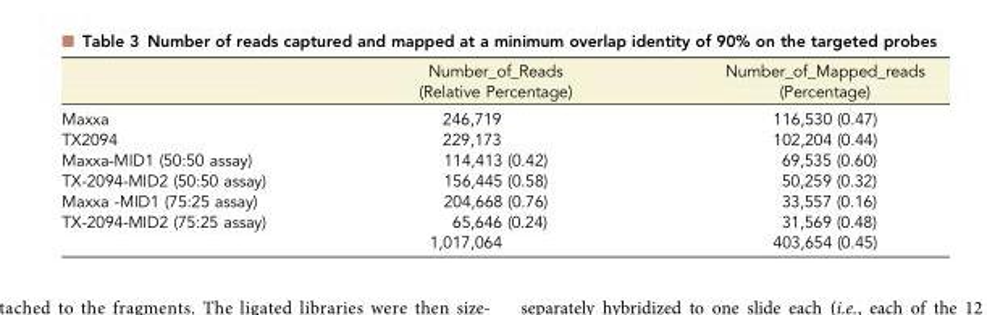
<table><thead><tr><td></td><td>Number_of_Reads (Relative Percentage)</td><td>Number_of_Mapped_reads (Percentage)</td></tr></thead><tbody><tr><td>Maxxa</td><td>246,719</td><td>116,530 (0.47)</td></tr><tr><td>TX2094</td><td>229,173</td><td>102,204 (0.44)</td></tr><tr><td>Maxxa-MID1 (50:50 assay)</td><td>114,413 (0.42)</td><td>69,535 (0.60)</td></tr><tr><td>TX-2094-MID2 (50:50 assay)</td><td>156,445 (0.58)</td><td>50,259 (0.32)</td></tr><tr><td>Maxxa -MID1 (75:25 assay)</td><td>204,668 (0.76)</td><td>33,557 (0.16)</td></tr><tr><td rowspan="2">TX-2094-MID2 (75:25 assay)</td><td>65,646 (0.24)</td><td>31,569 (0.48)</td></tr><tr><td>1,017,064</td><td>403,654 (0.45)</td></tr></tbody></table>